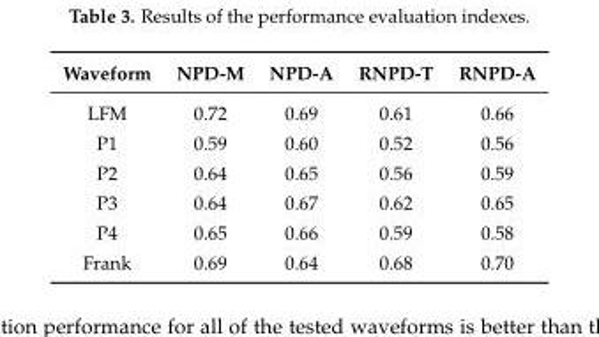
<table><thead><tr><td>Waveform</td><td>NPD-M</td><td>NPD-A</td><td>RNPD-T</td><td>RNPD-A</td></tr></thead><tbody><tr><td>LFM</td><td>0.72</td><td>0.69</td><td>0.61</td><td>0.66</td></tr><tr><td>P1</td><td>0.59</td><td>0.60</td><td>0.52</td><td>0.56</td></tr><tr><td>P2</td><td>0.64</td><td>0.65</td><td>0.56</td><td>0.59</td></tr><tr><td>P3</td><td>0.64</td><td>0.67</td><td>0.62</td><td>0.65</td></tr><tr><td>P4</td><td>0.65</td><td>0.66</td><td>0.59</td><td>0.58</td></tr><tr><td>Frank</td><td>0.69</td><td>0.64</td><td>0.68</td><td>0.70</td></tr></tbody></table>